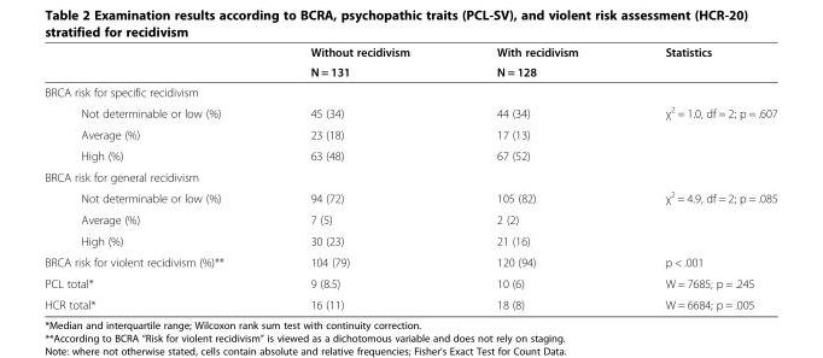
<table><thead><tr><td rowspan="2"></td><td rowspan="2">Without recidivism N = 131</td><td rowspan="2">With recidivism N = 128</td><td rowspan="2">Statistics</td></tr><tr></tr></thead><tbody><tr><td colspan="4">BRCA risk for specific recidivism</td></tr><tr><td>Not determinable or low (%)</td><td>45 (34)</td><td>44 (34)</td><td rowspan="3">χ<sup>2</sup> = 1.0, df = 2; p = .607</td></tr><tr><td>Average (%)</td><td>23 (18)</td><td>17 (13)</td></tr><tr><td>High (%)</td><td>63 (48)</td><td>67 (52)</td></tr><tr><td colspan="4">BRCA risk for general recidivism</td></tr><tr><td>Not determinable or low (%)</td><td>94 (72)</td><td>105 (82)</td><td rowspan="3">χ<sup>2</sup> = 4.9, df = 2; p = .085</td></tr><tr><td>Average (%)</td><td>7 (5)</td><td>2 (2)</td></tr><tr><td>High (%)</td><td>30 (23)</td><td>21 (16)</td></tr><tr><td>BRCA risk for violent recidivism (%)**</td><td>104 (79)</td><td>120 (94)</td><td>p &lt; .001</td></tr><tr><td>PCL total*</td><td>9 (8.5)</td><td>10 (6)</td><td>W = 7685; p = .245</td></tr><tr><td>HCR total*</td><td>16 (11)</td><td>18 (8)</td><td>W = 6684; p = .005</td></tr></tbody></table>